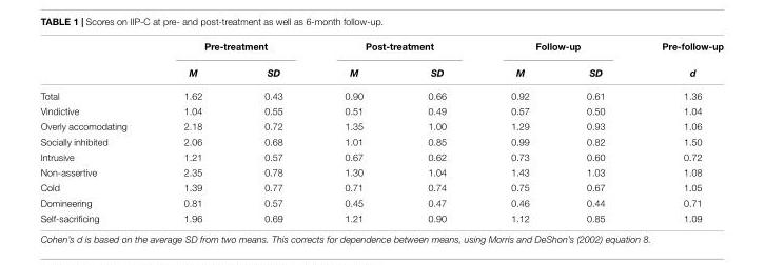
<table><thead><tr><td rowspan="2"></td><td colspan="2">Pre-treatment</td><td colspan="2">Post-treatment</td><td colspan="2">Follow-up</td><td rowspan="2">Pre-follow-up d</td></tr><tr><td>M</td><td>SD</td><td>M</td><td>SD</td><td>M</td><td>SD</td></tr></thead><tbody><tr><td>Total</td><td>1.62</td><td>0.43</td><td>0.90</td><td>0.66</td><td>0.92</td><td>0.61</td><td>1.36</td></tr><tr><td>Vindictive</td><td>1.04</td><td>0.55</td><td>0.51</td><td>0.49</td><td>0.57</td><td>0.50</td><td>1.04</td></tr><tr><td>Overly accomodating</td><td>2.18</td><td>0.72</td><td>1.35</td><td>1.00</td><td>1.29</td><td>0.93</td><td>1.06</td></tr><tr><td>Socially inhibited</td><td>2.06</td><td>0.68</td><td>1.01</td><td>0.85</td><td>0.99</td><td>0.82</td><td>1.50</td></tr><tr><td>Intrusive</td><td>1.21</td><td>0.57</td><td>0.67</td><td>0.62</td><td>0.73</td><td>0.60</td><td>0.72</td></tr><tr><td>Non-assertive</td><td>2.35</td><td>0.78</td><td>1.30</td><td>1.04</td><td>1.43</td><td>1.03</td><td>1.08</td></tr><tr><td>Cold</td><td>1.39</td><td>0.77</td><td>0.71</td><td>0.74</td><td>0.75</td><td>0.67</td><td>1.05</td></tr><tr><td>Domineering</td><td>0.81</td><td>0.57</td><td>0.45</td><td>0.47</td><td>0.46</td><td>0.44</td><td>0.71</td></tr><tr><td>Self-sacrificing</td><td>1.96</td><td>0.69</td><td>1.21</td><td>0.90</td><td>1.12</td><td>0.85</td><td>1.09</td></tr></tbody></table>